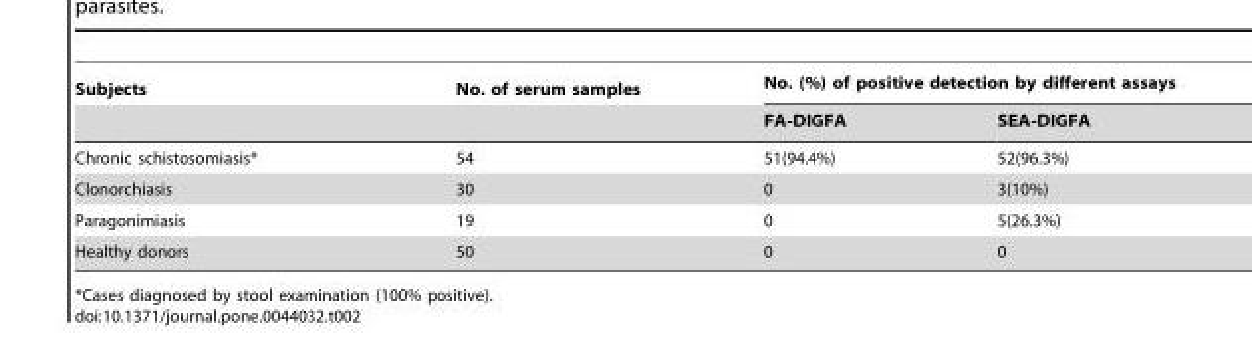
<table><thead><tr><td rowspan="2">Subjects</td><td rowspan="2">No. of serum samples</td><td colspan="2">No. (%) of positive detection by different assays</td></tr><tr><td>FA-DIGFA</td><td>SEA-DIGFA</td></tr></thead><tbody><tr><td>Chronic schistosomiasis*</td><td>54</td><td>51(94.4%)</td><td>52(96.3%)</td></tr><tr><td>Clonorchiasis</td><td>30</td><td>0</td><td>3(10%)</td></tr><tr><td>Paragonimiasis</td><td>19</td><td>0</td><td>5(26.3%)</td></tr><tr><td>Healthy donors</td><td>50</td><td>0</td><td>0</td></tr></tbody></table>